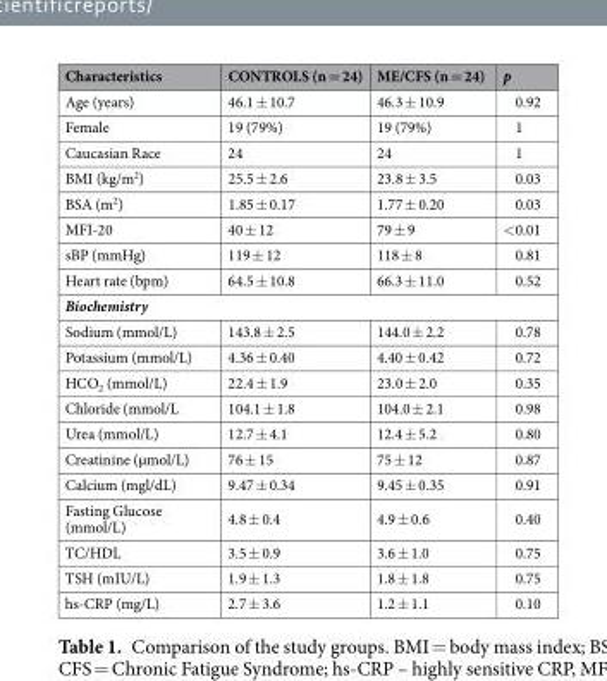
<table><thead><tr><td>Characteristics</td><td>CONTROLS (n = 24)</td><td>ME/CFS (n = 24)</td><td>p</td></tr></thead><tbody><tr><td>Age (years)</td><td>46.1 ± 10.7</td><td>46.3 ± 10.9</td><td>0.92</td></tr><tr><td>Female</td><td>19 (79%)</td><td>19 (79%)</td><td>1</td></tr><tr><td>Caucasian Race</td><td>24</td><td>24</td><td>1</td></tr><tr><td>BMI (kg/m<sup>2</sup>)</td><td>25.5 ± 2.6</td><td>23.8 ± 3.5</td><td>0.03</td></tr><tr><td>BSA (m<sup>2</sup>)</td><td>1.85 ± 0.17</td><td>1.77 ± 0.20</td><td>0.03</td></tr><tr><td>MFI-20</td><td>40 ± 12</td><td>79 ± 9</td><td>&lt;0.01</td></tr><tr><td>sBP (mmHg)</td><td>119 ± 12</td><td>118 ± 8</td><td>0.81</td></tr><tr><td>Heart rate (bpm)</td><td>64.5 ± 10.8</td><td>66.3 ± 11.0</td><td>0.52</td></tr><tr><td colspan="4">Biochemistry</td></tr><tr><td>Sodium (mmol/L)</td><td>143.8 ± 2.5</td><td>144.0 ± 2.2</td><td>0.78</td></tr><tr><td>Potassium (mmol/L)</td><td>4.36 ± 0.40</td><td>4.40 ± 0.42</td><td>0.72</td></tr><tr><td>HCO<sub>2</sub> (mmol/L)</td><td>22.4 ± 1.9</td><td>23.0 ± 2.0</td><td>0.35</td></tr><tr><td>Chloride (mmol/L</td><td>104.1 ± 1.8</td><td>104.0 ± 2.1</td><td>0.98</td></tr><tr><td>Urea (mmol/L)</td><td>12.7 ± 4.1</td><td>12.4 ± 5.2</td><td>0.80</td></tr><tr><td>Creatinine (µmol/L)</td><td>76 ± 15</td><td>75 ± 12</td><td>0.87</td></tr><tr><td>Calcium (mgl/dL)</td><td>9.47 ± 0.34</td><td>9.45 ± 0.35</td><td>0.91</td></tr><tr><td>Fasting Glucose (mmol/L)</td><td>4.8 ± 0.4</td><td>4.9 ± 0.6</td><td>0.40</td></tr><tr><td>TC/HDL</td><td>3.5 ± 0.9</td><td>3.6 ± 1.0</td><td>0.75</td></tr><tr><td>TSH (mIU/L)</td><td>1.9 ± 1.3</td><td>1.8 ± 1.8</td><td>0.75</td></tr><tr><td>hs-CRP (mg/L)</td><td>2.7 ± 3.6</td><td>1.2 ± 1.1</td><td>0.10</td></tr></tbody></table>